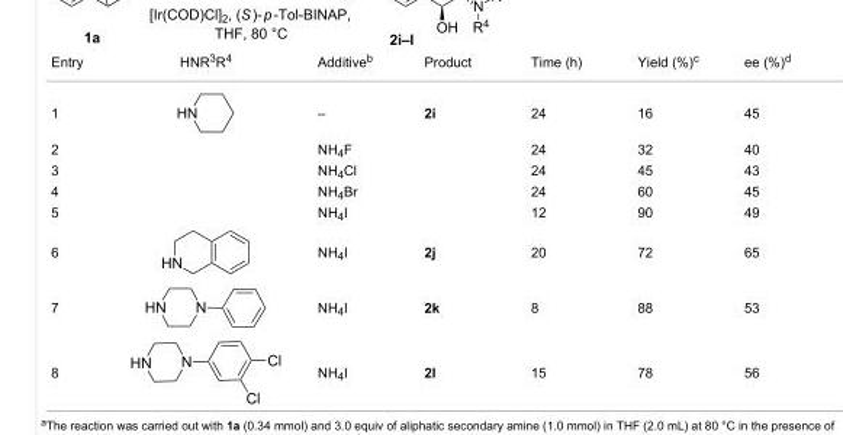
<table><tbody><tr><td>Entry</td><td>HNR<sup>3</sup>R<sup>4</sup></td><td>Additive<sup>b</sup></td><td>Product</td><td>Time (h)</td><td>Yield (%)<sup>c</sup></td><td>ee (%)<sup>d</sup></td></tr><tr><td>1</td><td></td><td>–</td><td>2i</td><td>24</td><td>16</td><td>45</td></tr><tr><td>2</td><td></td><td>NH<sub>4</sub>F</td><td></td><td>24</td><td>32</td><td>40</td></tr><tr><td>3</td><td></td><td>NH<sub>4</sub>Cl</td><td></td><td>24</td><td>45</td><td>43</td></tr><tr><td>4</td><td></td><td>NH<sub>4</sub>Br</td><td></td><td>24</td><td>60</td><td>45</td></tr><tr><td>5</td><td></td><td>NH<sub>4</sub>I</td><td></td><td>12</td><td>90</td><td>49</td></tr><tr><td>6</td><td></td><td>NH<sub>4</sub>I</td><td>2j</td><td>20</td><td>72</td><td>65</td></tr><tr><td>7</td><td></td><td>NH<sub>4</sub>I</td><td>2k</td><td>8</td><td>88</td><td>53</td></tr><tr><td>8</td><td></td><td>NH<sub>4</sub>I</td><td>2l</td><td>15</td><td>78</td><td>56</td></tr></tbody></table>